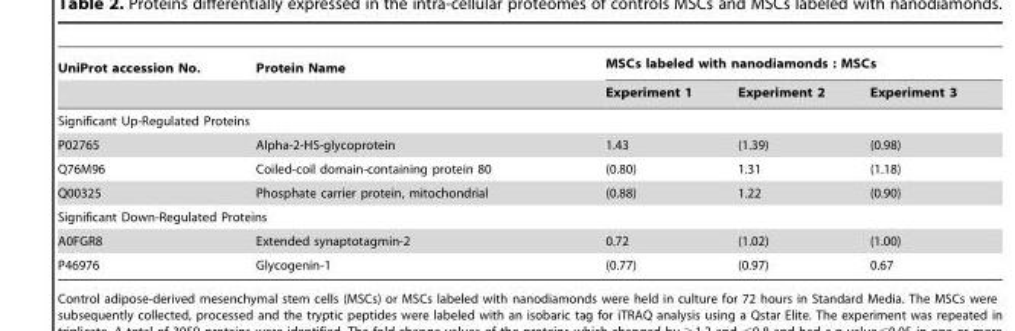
<table><thead><tr><td rowspan="2">UniProt accession No.</td><td rowspan="2">Protein Name</td><td colspan="3">MSCs labeled with nanodiamonds : MSCs</td></tr><tr><td>Experiment 1</td><td>Experiment 2</td><td>Experiment 3</td></tr></thead><tbody><tr><td colspan="5">Significant Up-Regulated Proteins</td></tr><tr><td>P02765</td><td>Alpha-2-HS-glycoprotein</td><td>1.43</td><td>(1.39)</td><td>(0.98)</td></tr><tr><td>Q76M96</td><td>Coiled-coil domain-containing protein 80</td><td>(0.80)</td><td>1.31</td><td>(1.18)</td></tr><tr><td>Q00325</td><td>Phosphate carrier protein, mitochondrial</td><td>(0.88)</td><td>1.22</td><td>(0.90)</td></tr><tr><td colspan="5">Significant Down-Regulated Proteins</td></tr><tr><td>A0FGR8</td><td>Extended synaptotagmin-2</td><td>0.72</td><td>(1.02)</td><td>(1.00)</td></tr><tr><td>P46976</td><td>Glycogenin-1</td><td>(0.77)</td><td>(0.97)</td><td>0.67</td></tr></tbody></table>